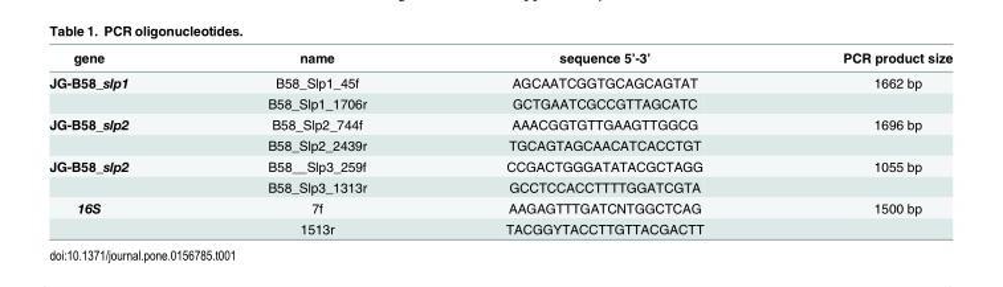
<table><thead><tr><td>gene</td><td>name</td><td>sequence 5’-3’</td><td>PCR product size</td></tr></thead><tbody><tr><td rowspan="2">JG-B58_slp1</td><td>B58_Slp1_45f</td><td>AGCAATCGGTGCAGCAGTAT</td><td>1662 bp</td></tr><tr><td>B58_Slp1_1706r</td><td>GCTGAATCGCCGTTAGCATC</td><td></td></tr><tr><td rowspan="2">JG-B58_slp2</td><td>B58_Slp2_744f</td><td>AAACGGTGTTGAAGTTGGCG</td><td>1696 bp</td></tr><tr><td>B58_Slp2_2439r</td><td>TGCAGTAGCAACATCACCTGT</td><td></td></tr><tr><td rowspan="2">JG-B58_slp2</td><td>B58__Slp3_259f</td><td>CCGACTGGGATATACGCTAGG</td><td>1055 bp</td></tr><tr><td>B58_Slp3_1313r</td><td>GCCTCCACCTTTTGGATCGTA</td><td></td></tr><tr><td rowspan="2">16S</td><td>7f</td><td>AAGAGTTTGATCNTGGCTCAG</td><td>1500 bp</td></tr><tr><td>1513r</td><td>TACGGYTACCTTGTTACGACTT</td><td></td></tr></tbody></table>